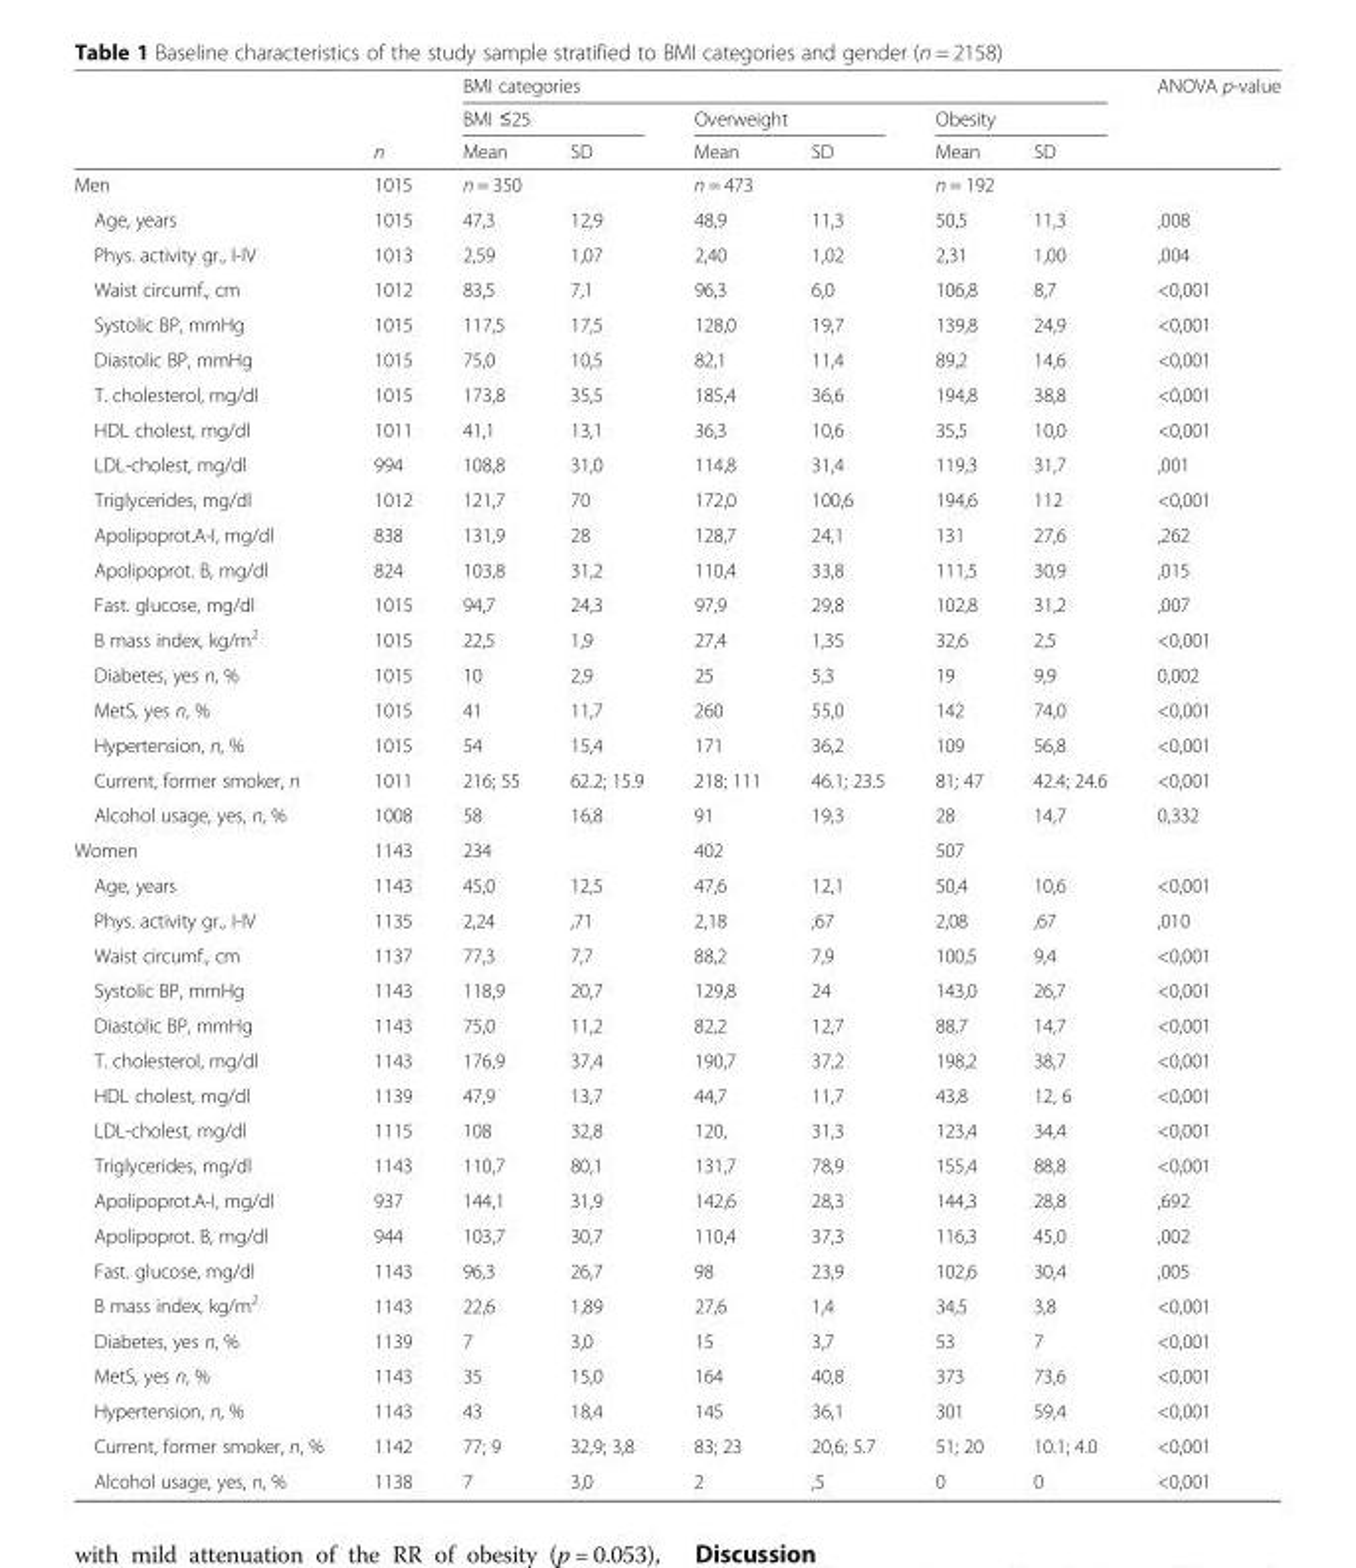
<table><thead><tr><td rowspan="3"></td><td rowspan="3">n</td><td colspan="6">BMI categories</td><td rowspan="3">ANOVA p-value</td></tr><tr><td colspan="2">BMI ≤25</td><td colspan="2">Overweight</td><td colspan="2">Obesity</td></tr><tr><td>Mean</td><td>SD</td><td>Mean</td><td>SD</td><td>Mean</td><td>SD</td></tr></thead><tbody><tr><td>Men</td><td>1015</td><td colspan="2">n = 350</td><td colspan="2">n = 473</td><td colspan="2">n = 192</td><td></td></tr><tr><td>Age, years</td><td>1015</td><td>47,3</td><td>12,9</td><td>48,9</td><td>11,3</td><td>50,5</td><td>11,3</td><td>,008</td></tr><tr><td>Phys. activity gr., I-IV</td><td>1013</td><td>2,59</td><td>1,07</td><td>2,40</td><td>1,02</td><td>2,31</td><td>1,00</td><td>,004</td></tr><tr><td>Waist circumf., cm</td><td>1012</td><td>83,5</td><td>7,1</td><td>96,3</td><td>6,0</td><td>106,8</td><td>8,7</td><td>&lt;0,001</td></tr><tr><td>Systolic BP, mmHg</td><td>1015</td><td>117,5</td><td>17,5</td><td>128,0</td><td>19,7</td><td>139,8</td><td>24,9</td><td>&lt;0,001</td></tr><tr><td>Diastolic BP, mmHg</td><td>1015</td><td>75,0</td><td>10,5</td><td>82,1</td><td>11,4</td><td>89,2</td><td>14,6</td><td>&lt;0,001</td></tr><tr><td>T. cholesterol, mg/dl</td><td>1015</td><td>173,8</td><td>35,5</td><td>185,4</td><td>36,6</td><td>194,8</td><td>38,8</td><td>&lt;0,001</td></tr><tr><td>HDL cholest, mg/dl</td><td>1011</td><td>41,1</td><td>13,1</td><td>36,3</td><td>10,6</td><td>35,5</td><td>10,0</td><td>&lt;0,001</td></tr><tr><td>LDL-cholest, mg/dl</td><td>994</td><td>108,8</td><td>31,0</td><td>114,8</td><td>31,4</td><td>119,3</td><td>31,7</td><td>,001</td></tr><tr><td>Triglycerides, mg/dl</td><td>1012</td><td>121,7</td><td>70</td><td>172,0</td><td>100,6</td><td>194,6</td><td>112</td><td>&lt;0,001</td></tr><tr><td>Apolipoprot.A-I, mg/dl</td><td>838</td><td>131,9</td><td>28</td><td>128,7</td><td>24,1</td><td>131</td><td>27,6</td><td>,262</td></tr><tr><td>Apolipoprot. B, mg/dl</td><td>824</td><td>103,8</td><td>31,2</td><td>110,4</td><td>33,8</td><td>111,5</td><td>30,9</td><td>,015</td></tr><tr><td>Fast. glucose, mg/dl</td><td>1015</td><td>94,7</td><td>24,3</td><td>97,9</td><td>29,8</td><td>102,8</td><td>31,2</td><td>,007</td></tr><tr><td>B mass index, kg/m<sup>2</sup></td><td>1015</td><td>22,5</td><td>1,9</td><td>27,4</td><td>1,35</td><td>32,6</td><td>2,5</td><td>&lt;0,001</td></tr><tr><td>Diabetes, yes n, %</td><td>1015</td><td>10</td><td>2,9</td><td>25</td><td>5,3</td><td>19</td><td>9,9</td><td>0,002</td></tr><tr><td>MetS, yes n, %</td><td>1015</td><td>41</td><td>11,7</td><td>260</td><td>55,0</td><td>142</td><td>74,0</td><td>&lt;0,001</td></tr><tr><td>Hypertension, n, %</td><td>1015</td><td>54</td><td>15,4</td><td>171</td><td>36,2</td><td>109</td><td>56,8</td><td>&lt;0,001</td></tr><tr><td>Current, former smoker, n</td><td>1011</td><td>216; 55</td><td>62.2; 15.9</td><td>218; 111</td><td>46.1; 23.5</td><td>81; 47</td><td>42.4; 24.6</td><td>&lt;0,001</td></tr><tr><td>Alcohol usage, yes, n, %</td><td>1008</td><td>58</td><td>16,8</td><td>91</td><td>19,3</td><td>28</td><td>14,7</td><td>0,332</td></tr><tr><td>Women</td><td>1143</td><td colspan="2">234</td><td colspan="2">402</td><td colspan="2">507</td><td></td></tr><tr><td>Age, years</td><td>1143</td><td>45,0</td><td>12,5</td><td>47,6</td><td>12,1</td><td>50,4</td><td>10,6</td><td>&lt;0,001</td></tr><tr><td>Phys. activity gr., I-IV</td><td>1135</td><td>2,24</td><td>,71</td><td>2,18</td><td>,67</td><td>2,08</td><td>,67</td><td>,010</td></tr><tr><td>Waist circumf., cm</td><td>1137</td><td>77,3</td><td>7,7</td><td>88,2</td><td>7,9</td><td>100,5</td><td>9,4</td><td>&lt;0,001</td></tr><tr><td>Systolic BP, mmHg</td><td>1143</td><td>118,9</td><td>20,7</td><td>129,8</td><td>24</td><td>143,0</td><td>26,7</td><td>&lt;0,001</td></tr><tr><td>Diastolic BP, mmHg</td><td>1143</td><td>75,0</td><td>11,2</td><td>82,2</td><td>12,7</td><td>88,7</td><td>14,7</td><td>&lt;0,001</td></tr><tr><td>T. cholesterol, mg/dl</td><td>1143</td><td>176,9</td><td>37,4</td><td>190,7</td><td>37,2</td><td>198,2</td><td>38,7</td><td>&lt;0,001</td></tr><tr><td>HDL cholest, mg/dl</td><td>1139</td><td>47,9</td><td>13,7</td><td>44,7</td><td>11,7</td><td>43,8</td><td>12, 6</td><td>&lt;0,001</td></tr><tr><td>LDL-cholest, mg/dl</td><td>1115</td><td>108</td><td>32,8</td><td>120,</td><td>31,3</td><td>123,4</td><td>34,4</td><td>&lt;0,001</td></tr><tr><td>Triglycerides, mg/dl</td><td>1143</td><td>110,7</td><td>80,1</td><td>131,7</td><td>78,9</td><td>155,4</td><td>88,8</td><td>&lt;0,001</td></tr><tr><td>Apolipoprot.A-I, mg/dl</td><td>937</td><td>144,1</td><td>31,9</td><td>142,6</td><td>28,3</td><td>144,3</td><td>28,8</td><td>,692</td></tr><tr><td>Apolipoprot. B, mg/dl</td><td>944</td><td>103,7</td><td>30,7</td><td>110,4</td><td>37,3</td><td>116,3</td><td>45,0</td><td>,002</td></tr><tr><td>Fast. glucose, mg/dl</td><td>1143</td><td>96,3</td><td>26,7</td><td>98</td><td>23,9</td><td>102,6</td><td>30,4</td><td>,005</td></tr><tr><td>B mass index, kg/m<sup>2</sup></td><td>1143</td><td>22,6</td><td>1,89</td><td>27,6</td><td>1,4</td><td>34,5</td><td>3,8</td><td>&lt;0,001</td></tr><tr><td>Diabetes, yes n, %</td><td>1139</td><td>7</td><td>3,0</td><td>15</td><td>3,7</td><td>53</td><td>7</td><td>&lt;0,001</td></tr><tr><td>MetS, yes n, %</td><td>1143</td><td>35</td><td>15,0</td><td>164</td><td>40,8</td><td>373</td><td>73,6</td><td>&lt;0,001</td></tr><tr><td>Hypertension, n, %</td><td>1143</td><td>43</td><td>18,4</td><td>145</td><td>36,1</td><td>301</td><td>59,4</td><td>&lt;0,001</td></tr><tr><td>Current, former smoker, n, %</td><td>1142</td><td>77; 9</td><td>32,9; 3,8</td><td>83; 23</td><td>20,6; 5.7</td><td>51; 20</td><td>10.1; 4.0</td><td>&lt;0,001</td></tr><tr><td>Alcohol usage, yes, n, %</td><td>1138</td><td>7</td><td>3,0</td><td>2</td><td>,5</td><td>0</td><td>0</td><td>&lt;0,001</td></tr></tbody></table>